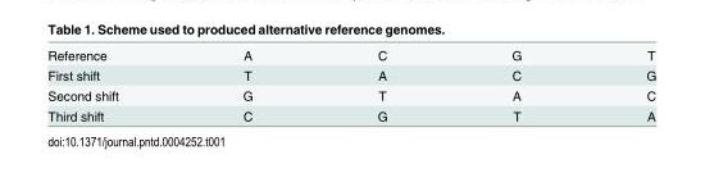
<table><tbody><tr><td>Reference</td><td>A</td><td>C</td><td>G</td><td>T</td></tr><tr><td>First shift</td><td>T</td><td>A</td><td>C</td><td>G</td></tr><tr><td>Second shift</td><td>G</td><td>T</td><td>A</td><td>C</td></tr><tr><td>Third shift</td><td>C</td><td>G</td><td>T</td><td>A</td></tr></tbody></table>